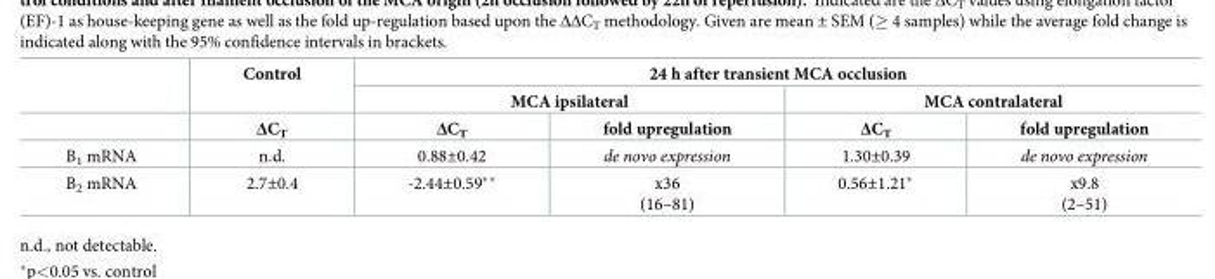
<table><thead><tr><td rowspan="3"></td><td rowspan="3">Control ΔC<sub>T</sub></td><td colspan="4">24 h after transient MCA occlusion</td></tr><tr><td colspan="2">MCA ipsilateral</td><td colspan="2">MCA contralateral</td></tr><tr><td>ΔC<sub>T</sub></td><td>fold upregulation</td><td>ΔC<sub>T</sub></td><td>fold upregulation</td></tr></thead><tbody><tr><td>B<sub>1</sub> mRNA</td><td>n.d.</td><td>0.88±0.42</td><td>de novo expression</td><td>1.30±0.39</td><td>de novo expression</td></tr><tr><td>B<sub>2</sub> mRNA</td><td>2.7±0.4</td><td>-2.44±0.59**</td><td>x36 (16–81)</td><td>0.56±1.21*</td><td>x9.8 (2–51)</td></tr></tbody></table>